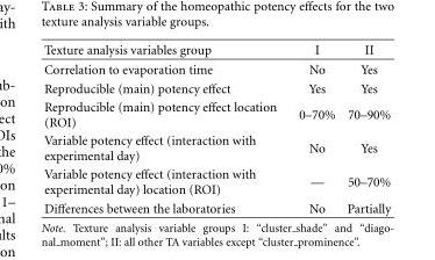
<table><thead><tr><td>Texture analysis variables group</td><td>I</td><td>II</td></tr></thead><tbody><tr><td>Correlation to evaporation time</td><td>No</td><td>Yes</td></tr><tr><td>Reproducible (main) potency effect</td><td>Yes</td><td>Yes</td></tr><tr><td>Reproducible (main) potency effect location (ROI)</td><td>0–70%</td><td>70–90%</td></tr><tr><td>Variable potency effect (interaction with experimental day)</td><td>No</td><td>Yes</td></tr><tr><td>Variable potency effect (interaction with experimental day) location (ROI)</td><td>—</td><td>50–70%</td></tr><tr><td>Differences between the laboratories</td><td>No</td><td>Partially</td></tr></tbody></table>